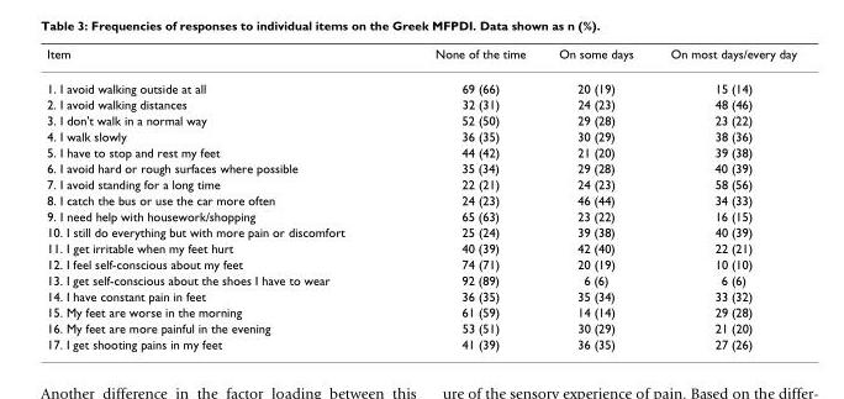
<table><thead><tr><td>Item</td><td>None of the time</td><td>On some days</td><td>On most days/every day</td></tr></thead><tbody><tr><td>1. I avoid walking outside at all</td><td>69 (66)</td><td>20 (19)</td><td>15 (14)</td></tr><tr><td>2. I avoid walking distances</td><td>32 (31)</td><td>24 (23)</td><td>48 (46)</td></tr><tr><td>3. I don&#x27;t walk in a normal way</td><td>52 (50)</td><td>29 (28)</td><td>23 (22)</td></tr><tr><td>4. I walk slowly</td><td>36 (35)</td><td>30 (29)</td><td>38 (36)</td></tr><tr><td>5. I have to stop and rest my feet</td><td>44 (42)</td><td>21 (20)</td><td>39 (38)</td></tr><tr><td>6. I avoid hard or rough surfaces where possible</td><td>35 (34)</td><td>29 (28)</td><td>40 (39)</td></tr><tr><td>7. I avoid standing for a long time</td><td>22 (21)</td><td>24 (23)</td><td>58 (56)</td></tr><tr><td>8. I catch the bus or use the car more often</td><td>24 (23)</td><td>46 (44)</td><td>34 (33)</td></tr><tr><td>9. I need help with housework/shopping</td><td>65 (63)</td><td>23 (22)</td><td>16 (15)</td></tr><tr><td>10. I still do everything but with more pain or discomfort</td><td>25 (24)</td><td>39 (38)</td><td>40 (39)</td></tr><tr><td>11. I get irritable when my feet hurt</td><td>40 (39)</td><td>42 (40)</td><td>22 (21)</td></tr><tr><td>12. I feel self-conscious about my feet</td><td>74 (71)</td><td>20 (19)</td><td>10 (10)</td></tr><tr><td>13. I get self-conscious about the shoes I have to wear</td><td>92 (89)</td><td>6 (6)</td><td>6 (6)</td></tr><tr><td>14. I have constant pain in feet</td><td>36 (35)</td><td>35 (34)</td><td>33 (32)</td></tr><tr><td>15. My feet are worse in the morning</td><td>61 (59)</td><td>14 (14)</td><td>29 (28)</td></tr><tr><td>16. My feet are more painful in the evening</td><td>53 (51)</td><td>30 (29)</td><td>21 (20)</td></tr><tr><td>17. I get shooting pains in my feet</td><td>41 (39)</td><td>36 (35)</td><td>27 (26)</td></tr></tbody></table>